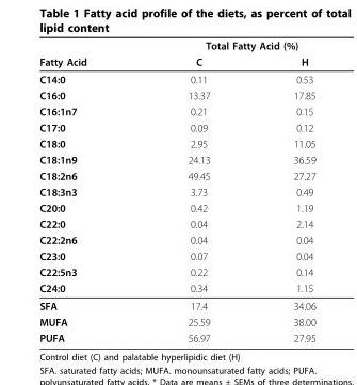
<table><thead><tr><td rowspan="2">Fatty Acid</td><td colspan="2">Total Fatty Acid (%)</td></tr><tr><td>C</td><td>H</td></tr></thead><tbody><tr><td>C14:0</td><td>0.11</td><td>0.53</td></tr><tr><td>C16:0</td><td>13.37</td><td>17.85</td></tr><tr><td>C16:1n7</td><td>0.21</td><td>0.15</td></tr><tr><td>C17:0</td><td>0.09</td><td>0.12</td></tr><tr><td>C18:0</td><td>2.95</td><td>11.05</td></tr><tr><td>C18:1n9</td><td>24.13</td><td>36.59</td></tr><tr><td>C18:2n6</td><td>49.45</td><td>27.27</td></tr><tr><td>C18:3n3</td><td>3.73</td><td>0.49</td></tr><tr><td>C20:0</td><td>0.42</td><td>1.19</td></tr><tr><td>C22:0</td><td>0.04</td><td>2.14</td></tr><tr><td>C22:2n6</td><td>0.04</td><td>0.04</td></tr><tr><td>C23:0</td><td>0.07</td><td>0.04</td></tr><tr><td>C22:5n3</td><td>0.22</td><td>0.14</td></tr><tr><td>C24:0</td><td>0.34</td><td>1.15</td></tr><tr><td>SFA</td><td>17.4</td><td>34.06</td></tr><tr><td>MUFA</td><td>25.59</td><td>38.00</td></tr><tr><td>PUFA</td><td>56.97</td><td>27.95</td></tr></tbody></table>